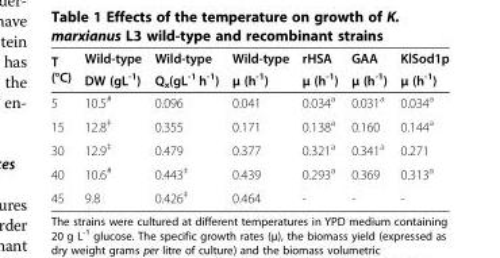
<table><thead><tr><td rowspan="2">T (°C)</td><td rowspan="2">Wild-type DW (gL<sup>-1</sup>)</td><td rowspan="2">Wild-type Q<sub>x</sub>(gL<sup>-1</sup> h<sup>-1</sup>)</td><td rowspan="2">Wild-type μ (h<sup>-1</sup>)</td><td rowspan="2">rHSA μ (h<sup>-1</sup>)</td><td rowspan="2">GAA μ (h<sup>-1</sup>)</td><td rowspan="2">KlSod1p μ (h<sup>-1</sup>)</td></tr><tr></tr></thead><tbody><tr><td>5</td><td>10.5<sup>#</sup></td><td>0.096</td><td>0.041</td><td>0.034<sup>a</sup></td><td>0.031<sup>a</sup></td><td>0.034<sup>a</sup></td></tr><tr><td>15</td><td>12.8<sup>‡</sup></td><td>0.355</td><td>0.171</td><td>0.138<sup>a</sup></td><td>0.160</td><td>0.144<sup>a</sup></td></tr><tr><td>30</td><td>12.9<sup>‡</sup></td><td>0.479</td><td>0.377</td><td>0.321<sup>a</sup></td><td>0.341<sup>a</sup></td><td>0.271</td></tr><tr><td>40</td><td>10.6<sup>#</sup></td><td>0.443<sup>‡</sup></td><td>0.439</td><td>0.293<sup>a</sup></td><td>0.369</td><td>0.313<sup>a</sup></td></tr><tr><td>45</td><td>9.8</td><td>0.426<sup>‡</sup></td><td>0.464</td><td>-</td><td>-</td><td>-</td></tr></tbody></table>